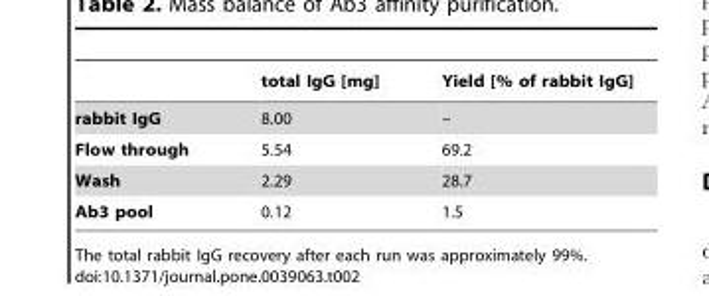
<table><thead><tr><td></td><td>total IgG [mg]</td><td>Yield [% of rabbit IgG]</td></tr></thead><tbody><tr><td>rabbit IgG</td><td>8.00</td><td>–</td></tr><tr><td>Flow through</td><td>5.54</td><td>69.2</td></tr><tr><td>Wash</td><td>2.29</td><td>28.7</td></tr><tr><td>Ab3 pool</td><td>0.12</td><td>1.5</td></tr></tbody></table>